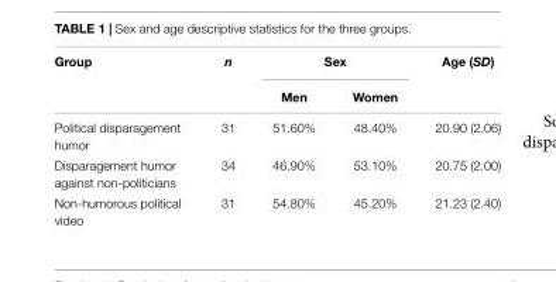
<table><thead><tr><td rowspan="2">Group</td><td rowspan="2">n</td><td colspan="2">Sex</td><td rowspan="2">Age (SD)</td></tr><tr><td>Men</td><td>Women</td></tr></thead><tbody><tr><td>Political disparagement humor</td><td>31</td><td>51.60%</td><td>48.40%</td><td>20.90 (2.06)</td></tr><tr><td>Disparagement humor against non-politicians</td><td>34</td><td>46.90%</td><td>53.10%</td><td>20.75 (2.00)</td></tr><tr><td>Non-humorous political video</td><td>31</td><td>54.80%</td><td>45.20%</td><td>21.23 (2.40)</td></tr></tbody></table>